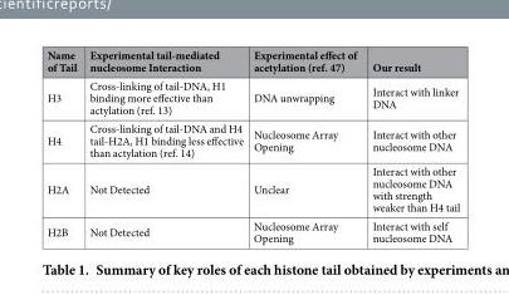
<table><thead><tr><td>Name of Tail</td><td>Experimental tail-mediated nucleosome Interaction</td><td>Experimental effect of acetylation (ref. 47)</td><td>Our result</td></tr></thead><tbody><tr><td>H3</td><td>Cross-linking of tail-DNA, H1 binding more effective than actylation (ref. 13)</td><td>DNA unwrapping</td><td>Interact with linker DNA</td></tr><tr><td>H4</td><td>Cross-linking of tail-DNA and H4 tail-H2A, H1 binding less effective than actylation (ref. 14)</td><td>Nucleosome Array Opening</td><td>Interact with other nucleosome DNA</td></tr><tr><td>H2A</td><td>Not Detected</td><td>Unclear</td><td>Interact with other nucleosome DNA with strength weaker than H4 tail</td></tr><tr><td>H2B</td><td>Not Detected</td><td>Nucleosome Array Opening</td><td>Interact with self nucleosome DNA</td></tr></tbody></table>